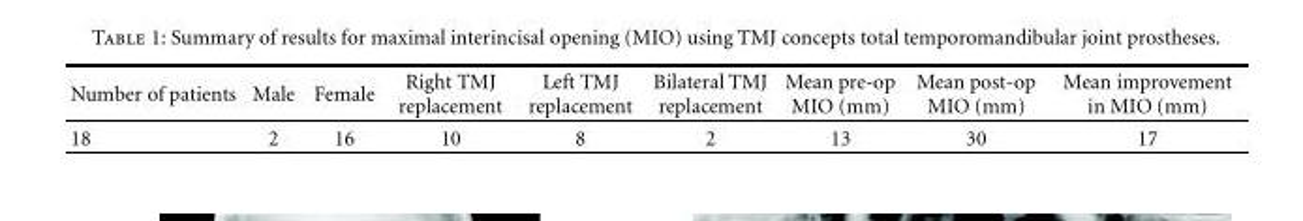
<table><thead><tr><td>Number of patients</td><td>Male</td><td>Female</td><td>Right TMJ replacement</td><td>Left TMJ replacement</td><td>Bilateral TMJ replacement</td><td>Mean pre-op MIO (mm)</td><td>Mean post-op MIO (mm)</td><td>Mean improvement in MIO (mm)</td></tr></thead><tbody><tr><td>18</td><td>2</td><td>16</td><td>10</td><td>8</td><td>2</td><td>13</td><td>30</td><td>17</td></tr></tbody></table>